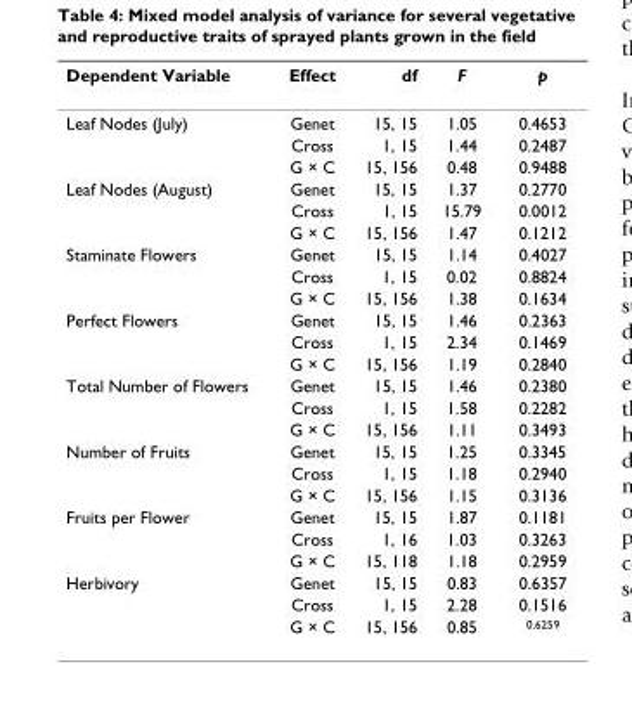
<table><thead><tr><td>Dependent Variable</td><td>Effect</td><td>df</td><td>F</td><td>p</td></tr></thead><tbody><tr><td rowspan="3">Leaf Nodes (July)</td><td>Genet</td><td>15, 15</td><td>1.05</td><td>0.4653</td></tr><tr><td>Cross</td><td>1, 15</td><td>1.44</td><td>0.2487</td></tr><tr><td>G × C</td><td>15, 156</td><td>0.48</td><td>0.9488</td></tr><tr><td rowspan="3">Leaf Nodes (August)</td><td>Genet</td><td>15, 15</td><td>1.37</td><td>0.2770</td></tr><tr><td>Cross</td><td>1, 15</td><td>15.79</td><td>0.0012</td></tr><tr><td>G × C</td><td>15, 156</td><td>1.47</td><td>0.1212</td></tr><tr><td rowspan="3">Staminate Flowers</td><td>Genet</td><td>15, 15</td><td>1.14</td><td>0.4027</td></tr><tr><td>Cross</td><td>1, 15</td><td>0.02</td><td>0.8824</td></tr><tr><td>G × C</td><td>15, 156</td><td>1.38</td><td>0.1634</td></tr><tr><td rowspan="3">Perfect Flowers</td><td>Genet</td><td>15, 15</td><td>1.46</td><td>0.2363</td></tr><tr><td>Cross</td><td>1, 15</td><td>2.34</td><td>0.1469</td></tr><tr><td>G × C</td><td>15, 156</td><td>1.19</td><td>0.2840</td></tr><tr><td rowspan="3">Total Number of Flowers</td><td>Genet</td><td>15, 15</td><td>1.46</td><td>0.2380</td></tr><tr><td>Cross</td><td>1, 15</td><td>1.58</td><td>0.2282</td></tr><tr><td>G × C</td><td>15, 156</td><td>1.11</td><td>0.3493</td></tr><tr><td rowspan="3">Number of Fruits</td><td>Genet</td><td>15, 15</td><td>1.25</td><td>0.3345</td></tr><tr><td>Cross</td><td>1, 15</td><td>1.18</td><td>0.2940</td></tr><tr><td>G × C</td><td>15, 156</td><td>1.15</td><td>0.3136</td></tr><tr><td rowspan="3">Fruits per Flower</td><td>Genet</td><td>15, 15</td><td>1.87</td><td>0.1181</td></tr><tr><td>Cross</td><td>1, 16</td><td>1.03</td><td>0.3263</td></tr><tr><td>G × C</td><td>15, 118</td><td>1.18</td><td>0.2959</td></tr><tr><td rowspan="3">Herbivory</td><td>Genet</td><td>15, 15</td><td>0.83</td><td>0.6357</td></tr><tr><td>Cross</td><td>1, 15</td><td>2.28</td><td>0.1516</td></tr><tr><td>G × C</td><td>15, 156</td><td>0.85</td><td><sup>0.6259</sup></td></tr></tbody></table>